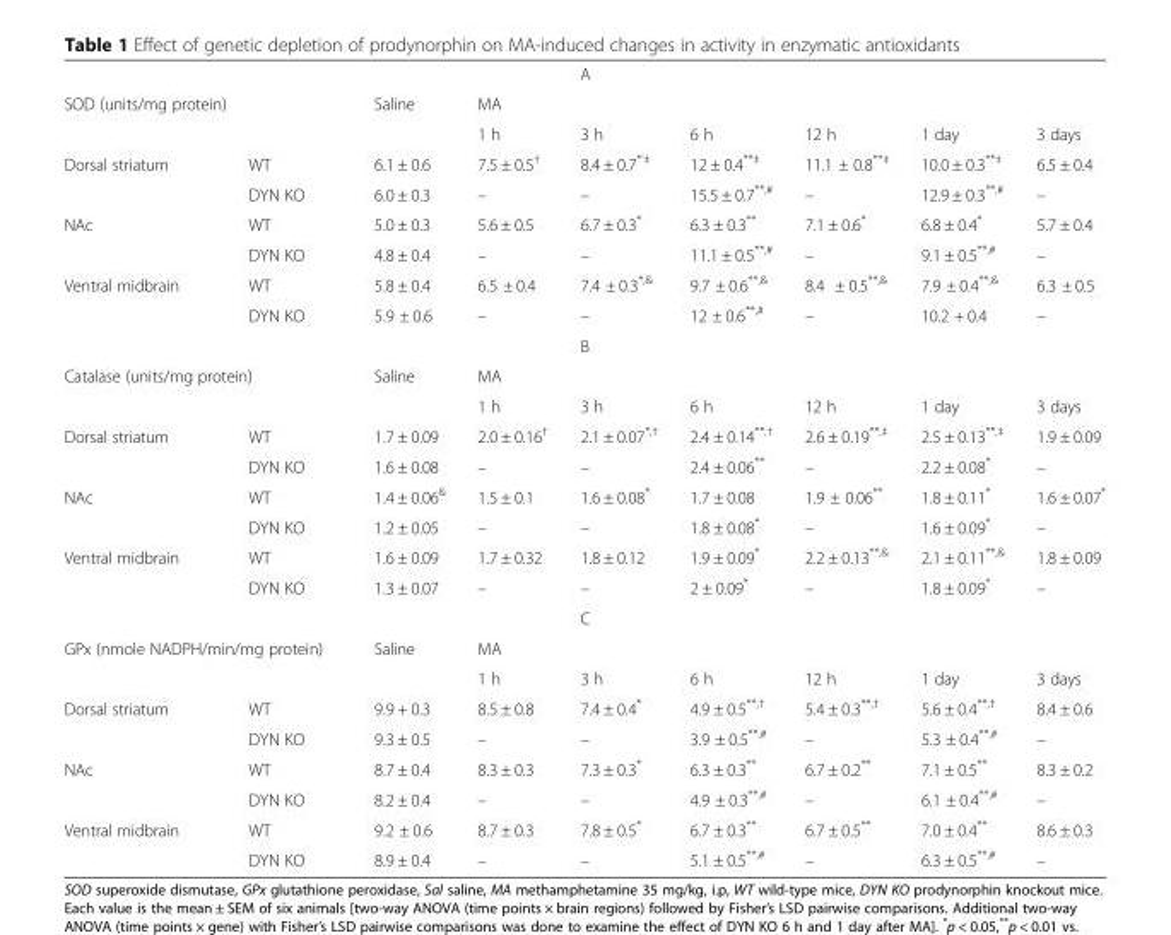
<table><tbody><tr><td colspan="9">A</td></tr><tr><td rowspan="2" colspan="2">SOD (units/mg protein)</td><td rowspan="2">Saline</td><td colspan="6">MA</td></tr><tr><td>1 h</td><td>3 h</td><td>6 h</td><td>12 h</td><td>1 day</td><td>3 days</td></tr><tr><td rowspan="2">Dorsal striatum</td><td>WT</td><td>6.1 ± 0.6</td><td>7.5 ± 0.5<sup>†</sup></td><td>8.4 ± 0.7<sup>*’‡</sup></td><td>12 ± 0.4<sup>**‡</sup></td><td>11.1 ± 0.8<sup>**‡</sup></td><td>10.0 ± 0.3<sup>**‡</sup></td><td>6.5 ± 0.4</td></tr><tr><td>DYN KO</td><td>6.0 ± 0.3</td><td>–</td><td>–</td><td>15.5 ± 0.7<sup>**,#</sup></td><td>–</td><td>12.9 ± 0.3<sup>**,#</sup></td><td>–</td></tr><tr><td rowspan="2">NAc</td><td>WT</td><td>5.0 ± 0.3</td><td>5.6 ± 0.5</td><td>6.7 ± 0.3*</td><td>6.3 ± 0.3**</td><td>7.1 ± 0.6*</td><td>6.8 ± 0.4*</td><td>5.7 ± 0.4</td></tr><tr><td>DYN KO</td><td>4.8 ± 0.4</td><td>–</td><td>–</td><td>11.1 ± 0.5<sup>**,#</sup></td><td>–</td><td>9.1 ± 0.5<sup>**,#</sup></td><td>–</td></tr><tr><td rowspan="2">Ventral midbrain</td><td>WT</td><td>5.8 ± 0.4</td><td>6.5 ± 0.4</td><td>7.4 ± 0.3<sup>*,&amp;</sup></td><td>9.7 ± 0.6<sup>**,&amp;</sup></td><td>8.4 ± 0.5<sup>**,&amp;</sup></td><td>7.9 ± 0.4<sup>**,&amp;</sup></td><td>6.3 ± 0.5</td></tr><tr><td>DYN KO</td><td>5.9 ± 0.6</td><td>–</td><td>–</td><td>12 ± 0.6<sup>**,#</sup></td><td>–</td><td>10.2 + 0.4</td><td>–</td></tr><tr><td colspan="9">B</td></tr><tr><td rowspan="2" colspan="2">Catalase (units/mg protein)</td><td rowspan="2">Saline</td><td colspan="6">MA</td></tr><tr><td>1 h</td><td>3 h</td><td>6 h</td><td>12 h</td><td>1 day</td><td>3 days</td></tr><tr><td rowspan="2">Dorsal striatum</td><td>WT</td><td>1.7 ± 0.09</td><td>2.0 ± 0.16<sup>†</sup></td><td>2.1 ± 0.07<sup>*,†</sup></td><td>2.4 ± 0.14<sup>**,†</sup></td><td>2.6 ± 0.19<sup>**,‡</sup></td><td>2.5 ± 0.13<sup>**,‡</sup></td><td>1.9 ± 0.09</td></tr><tr><td>DYN KO</td><td>1.6 ± 0.08</td><td>–</td><td>–</td><td>2.4 ± 0.06**</td><td>–</td><td>2.2 ± 0.08*</td><td>–</td></tr><tr><td rowspan="2">NAc</td><td>WT</td><td>1.4 ± 0.06<sup>&amp;</sup></td><td>1.5 ± 0.1</td><td>1.6 ± 0.08*</td><td>1.7 ± 0.08</td><td>1.9 ± 0.06**</td><td>1.8 ± 0.11*</td><td>1.6 ± 0.07*</td></tr><tr><td>DYN KO</td><td>1.2 ± 0.05</td><td>–</td><td>–</td><td>1.8 ± 0.08*</td><td>–</td><td>1.6 ± 0.09*</td><td>–</td></tr><tr><td rowspan="2">Ventral midbrain</td><td>WT</td><td>1.6 ± 0.09</td><td>1.7 ± 0.32</td><td>1.8 ± 0.12</td><td>1.9 ± 0.09*</td><td>2.2 ± 0.13<sup>**,&amp;</sup></td><td>2.1 ± 0.11<sup>**,&amp;</sup></td><td>1.8 ± 0.09</td></tr><tr><td>DYN KO</td><td>1.3 ± 0.07</td><td>–</td><td>–</td><td>2 ± 0.09*</td><td>–</td><td>1.8 ± 0.09*</td><td>–</td></tr><tr><td colspan="9">C</td></tr><tr><td rowspan="2" colspan="2">GPx (nmole NADPH/min/mg protein)</td><td rowspan="2">Saline</td><td colspan="6">MA</td></tr><tr><td>1 h</td><td>3 h</td><td>6 h</td><td>12 h</td><td>1 day</td><td>3 days</td></tr><tr><td rowspan="2">Dorsal striatum</td><td>WT</td><td>9.9 + 0.3</td><td>8.5 ± 0.8</td><td>7.4 ± 0.4*</td><td>4.9 ± 0.5<sup>**,†</sup></td><td>5.4 ± 0.3<sup>**,†</sup></td><td>5.6 ± 0.4<sup>**,†</sup></td><td>8.4 ± 0.6</td></tr><tr><td>DYN KO</td><td>9.3 ± 0.5</td><td>–</td><td>–</td><td>3.9 ± 0.5<sup>**,#</sup></td><td>–</td><td>5.3 ± 0.4<sup>**,#</sup></td><td>–</td></tr><tr><td rowspan="2">NAc</td><td>WT</td><td>8.7 ± 0.4</td><td>8.3 ± 0.3</td><td>7.3 ± 0.3*</td><td>6.3 ± 0.3**</td><td>6.7 ± 0.2**</td><td>7.1 ± 0.5**</td><td>8.3 ± 0.2</td></tr><tr><td>DYN KO</td><td>8.2 ± 0.4</td><td>–</td><td>–</td><td>4.9 ± 0.3<sup>**,#</sup></td><td>–</td><td>6.1 ± 0.4<sup>**,#</sup></td><td>–</td></tr><tr><td rowspan="2">Ventral midbrain</td><td>WT</td><td>9.2 ± 0.6</td><td>8.7 ± 0.3</td><td>7.8 ± 0.5*</td><td>6.7 ± 0.3**</td><td>6.7 ± 0.5**</td><td>7.0 ± 0.4**</td><td>8.6 ± 0.3</td></tr><tr><td>DYN KO</td><td>8.9 ± 0.4</td><td>–</td><td>–</td><td>5.1 ± 0.5<sup>**,#</sup></td><td>–</td><td>6.3 ± 0.5<sup>**,#</sup></td><td>–</td></tr></tbody></table>